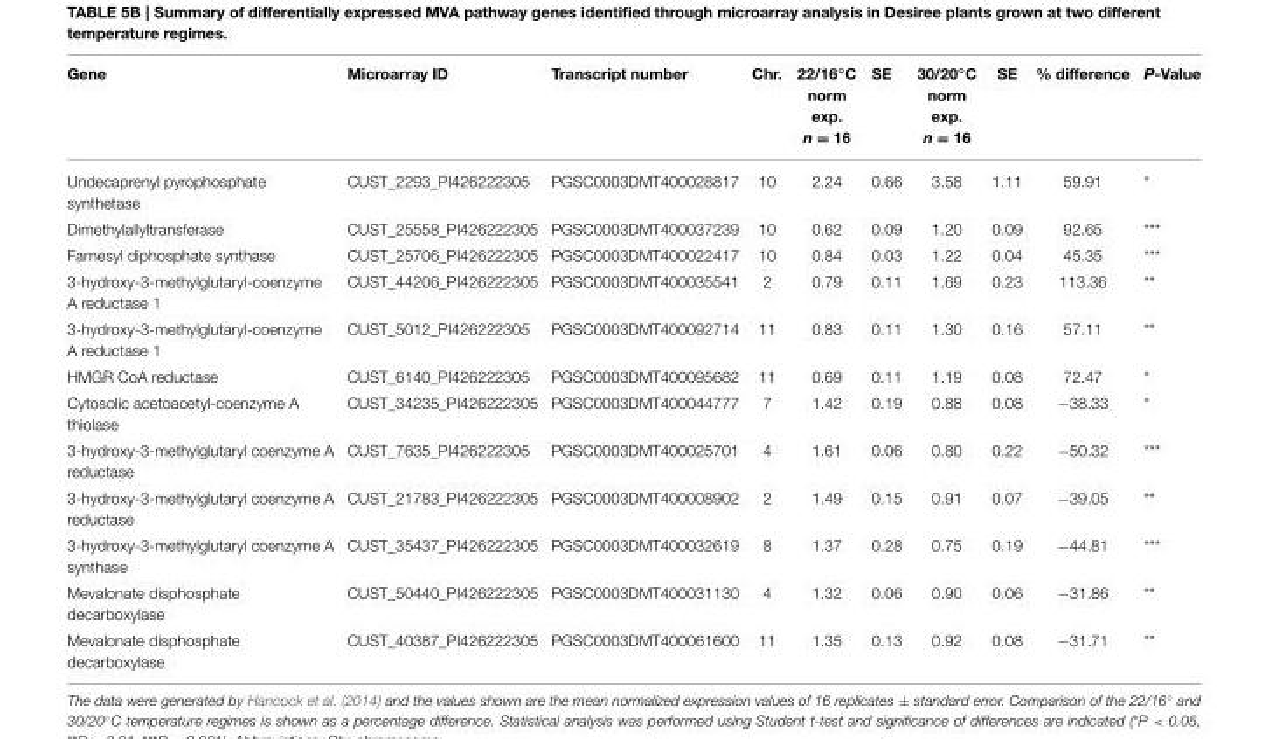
<table><thead><tr><td>Gene</td><td>Microarray ID</td><td>Transcript number</td><td>Chr.</td><td>22/16◦C norm exp. n = 16</td><td>SE</td><td>30/20◦C norm exp. n = 16</td><td>SE</td><td>% difference</td><td>P-Value</td></tr></thead><tbody><tr><td>Undecaprenyl pyrophosphate synthetase</td><td>CUST_2293_PI426222305</td><td>PGSC0003DMT400028817</td><td>10</td><td>2.24</td><td>0.66</td><td>3.58</td><td>1.11</td><td>59.91</td><td>*</td></tr><tr><td>Dimethylallyltransferase</td><td>CUST_25558_PI426222305</td><td>PGSC0003DMT400037239</td><td>10</td><td>0.62</td><td>0.09</td><td>1.20</td><td>0.09</td><td>92.65</td><td>***</td></tr><tr><td>Farnesyl diphosphate synthase</td><td>CUST_25706_PI426222305</td><td>PGSC0003DMT400022417</td><td>10</td><td>0.84</td><td>0.03</td><td>1.22</td><td>0.04</td><td>45.35</td><td>***</td></tr><tr><td>3-hydroxy-3-methylglutaryl-coenzyme A reductase 1</td><td>CUST_44206_PI426222305</td><td>PGSC0003DMT400035541</td><td>2</td><td>0.79</td><td>0.11</td><td>1.69</td><td>0.23</td><td>113.36</td><td>**</td></tr><tr><td>3-hydroxy-3-methylglutaryl-coenzyme A reductase 1</td><td>CUST_5012_PI426222305</td><td>PGSC0003DMT400092714</td><td>11</td><td>0.83</td><td>0.11</td><td>1.30</td><td>0.16</td><td>57.11</td><td>**</td></tr><tr><td>HMGR CoA reductase</td><td>CUST_6140_PI426222305</td><td>PGSC0003DMT400095682</td><td>11</td><td>0.69</td><td>0.11</td><td>1.19</td><td>0.08</td><td>72.47</td><td>*</td></tr><tr><td>Cytosolic acetoacetyl-coenzyme A thiolase</td><td>CUST_34235_PI426222305</td><td>PGSC0003DMT400044777</td><td>7</td><td>1.42</td><td>0.19</td><td>0.88</td><td>0.08</td><td>−38.33</td><td>*</td></tr><tr><td>3-hydroxy-3-methylglutaryl coenzyme A reductase</td><td>CUST_7635_PI426222305</td><td>PGSC0003DMT400025701</td><td>4</td><td>1.61</td><td>0.06</td><td>0.80</td><td>0.22</td><td>−50.32</td><td>***</td></tr><tr><td>3-hydroxy-3-methylglutaryl coenzyme A reductase</td><td>CUST_21783_PI426222305</td><td>PGSC0003DMT400008902</td><td>2</td><td>1.49</td><td>0.15</td><td>0.91</td><td>0.07</td><td>−39.05</td><td>**</td></tr><tr><td>3-hydroxy-3-methylglutaryl coenzyme A synthase</td><td>CUST_35437_PI426222305</td><td>PGSC0003DMT400032619</td><td>8</td><td>1.37</td><td>0.28</td><td>0.75</td><td>0.19</td><td>−44.81</td><td>***</td></tr><tr><td>Mevalonate disphosphate decarboxylase</td><td>CUST_50440_PI426222305</td><td>PGSC0003DMT400031130</td><td>4</td><td>1.32</td><td>0.06</td><td>0.90</td><td>0.06</td><td>−31.86</td><td>**</td></tr><tr><td>Mevalonate disphosphate decarboxylase</td><td>CUST_40387_PI426222305</td><td>PGSC0003DMT400061600</td><td>11</td><td>1.35</td><td>0.13</td><td>0.92</td><td>0.08</td><td>−31.71</td><td>**</td></tr></tbody></table>